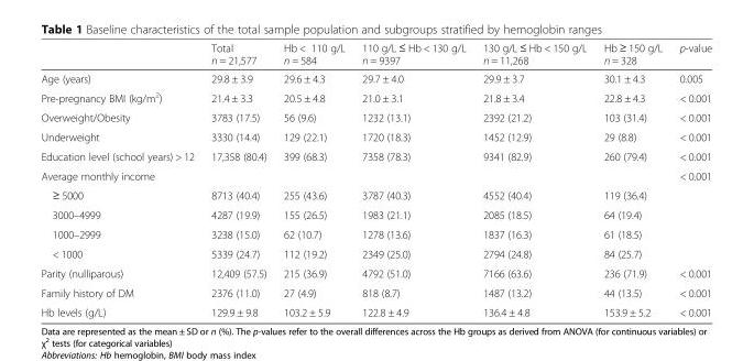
<table><thead><tr><td></td><td>Total n = 21,577</td><td>Hb &lt; 110 g/L n = 584</td><td>110 g/L ≤ Hb &lt; 130 g/L n = 9397</td><td>130 g/L ≤ Hb &lt; 150 g/L n = 11,268</td><td>Hb ≥ 150 g/L n = 328</td><td>p-value</td></tr></thead><tbody><tr><td>Age (years)</td><td>29.8 ± 3.9</td><td>29.6 ± 4.3</td><td>29.7 ± 4.0</td><td>29.9 ± 3.7</td><td>30.1 ± 4.3</td><td>0.005</td></tr><tr><td>Pre-pregnancy BMI (kg/m<sup>2</sup>)</td><td>21.4 ± 3.3</td><td>20.5 ± 4.8</td><td>21.0 ± 3.1</td><td>21.8 ± 3.4</td><td>22.8 ± 4.3</td><td>&lt; 0.001</td></tr><tr><td>Overweight/Obesity</td><td>3783 (17.5)</td><td>56 (9.6)</td><td>1232 (13.1)</td><td>2392 (21.2)</td><td>103 (31.4)</td><td>&lt; 0.001</td></tr><tr><td>Underweight</td><td>3330 (14.4)</td><td>129 (22.1)</td><td>1720 (18.3)</td><td>1452 (12.9)</td><td>29 (8.8)</td><td>&lt; 0.001</td></tr><tr><td>Education level (school years) &gt; 12</td><td>17,358 (80.4)</td><td>399 (68.3)</td><td>7358 (78.3)</td><td>9341 (82.9)</td><td>260 (79.4)</td><td>&lt; 0.001</td></tr><tr><td>Average monthly income</td><td></td><td></td><td></td><td></td><td></td><td>&lt; 0.001</td></tr><tr><td>≥ 5000</td><td>8713 (40.4)</td><td>255 (43.6)</td><td>3787 (40.3)</td><td>4552 (40.4)</td><td>119 (36.4)</td><td></td></tr><tr><td>3000–4999</td><td>4287 (19.9)</td><td>155 (26.5)</td><td>1983 (21.1)</td><td>2085 (18.5)</td><td>64 (19.4)</td><td></td></tr><tr><td>1000–2999</td><td>3238 (15.0)</td><td>62 (10.7)</td><td>1278 (13.6)</td><td>1837 (16.3)</td><td>61 (18.5)</td><td></td></tr><tr><td>&lt; 1000</td><td>5339 (24.7)</td><td>112 (19.2)</td><td>2349 (25.0)</td><td>2794 (24.8)</td><td>84 (25.7)</td><td></td></tr><tr><td>Parity (nulliparous)</td><td>12,409 (57.5)</td><td>215 (36.9)</td><td>4792 (51.0)</td><td>7166 (63.6)</td><td>236 (71.9)</td><td>&lt; 0.001</td></tr><tr><td>Family history of DM</td><td>2376 (11.0)</td><td>27 (4.9)</td><td>818 (8.7)</td><td>1487 (13.2)</td><td>44 (13.5)</td><td>&lt; 0.001</td></tr><tr><td>Hb levels (g/L)</td><td>129.9 ± 9.8</td><td>103.2 ± 5.9</td><td>122.8 ± 4.9</td><td>136.4 ± 4.8</td><td>153.9 ± 5.2</td><td>&lt; 0.001</td></tr></tbody></table>